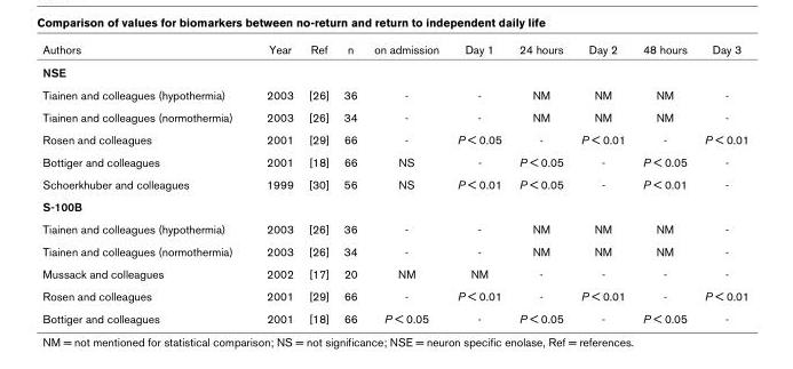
<table><thead><tr><td>Authors</td><td>Year</td><td>Ref</td><td>n</td><td>on admission</td><td>Day 1</td><td>24 hours</td><td>Day 2</td><td>48 hours</td><td>Day 3</td></tr></thead><tbody><tr><td colspan="10">NSE</td></tr><tr><td>Tiainen and colleagues (hypothermia)</td><td>2003</td><td>[26]</td><td>36</td><td>-</td><td>-</td><td>NM</td><td>NM</td><td>NM</td><td>-</td></tr><tr><td>Tiainen and colleagues (normothermia)</td><td>2003</td><td>[26]</td><td>34</td><td>-</td><td>-</td><td>NM</td><td>NM</td><td>NM</td><td>-</td></tr><tr><td>Rosen and colleagues</td><td>2001</td><td>[29]</td><td>66</td><td>-</td><td>P &lt; 0.05</td><td>-</td><td>P &lt; 0.01</td><td>-</td><td>P &lt; 0.01</td></tr><tr><td>Bottiger and colleagues</td><td>2001</td><td>[18]</td><td>66</td><td>NS</td><td>-</td><td>P &lt; 0.05</td><td>-</td><td>P &lt; 0.05</td><td>-</td></tr><tr><td>Schoerkhuber and colleagues</td><td>1999</td><td>[30]</td><td>56</td><td>NS</td><td>P &lt; 0.01</td><td>P &lt; 0.05</td><td>-</td><td>P &lt; 0.01</td><td>-</td></tr><tr><td colspan="10">S-100B</td></tr><tr><td>Tiainen and colleagues (hypothermia)</td><td>2003</td><td>[26]</td><td>36</td><td>-</td><td>-</td><td>NM</td><td>NM</td><td>NM</td><td>-</td></tr><tr><td>Tiainen and colleagues (normothermia)</td><td>2003</td><td>[26]</td><td>34</td><td>-</td><td>-</td><td>NM</td><td>NM</td><td>NM</td><td>-</td></tr><tr><td>Mussack and colleagues</td><td>2002</td><td>[17]</td><td>20</td><td>NM</td><td>NM</td><td>-</td><td>-</td><td>-</td><td>-</td></tr><tr><td>Rosen and colleagues</td><td>2001</td><td>[29]</td><td>66</td><td>-</td><td>P &lt; 0.01</td><td>-</td><td>P &lt; 0.01</td><td>-</td><td>P &lt; 0.01</td></tr><tr><td>Bottiger and colleagues</td><td>2001</td><td>[18]</td><td>66</td><td>P &lt; 0.05</td><td>-</td><td>P &lt; 0.05</td><td>-</td><td>P &lt; 0.05</td><td>-</td></tr></tbody></table>